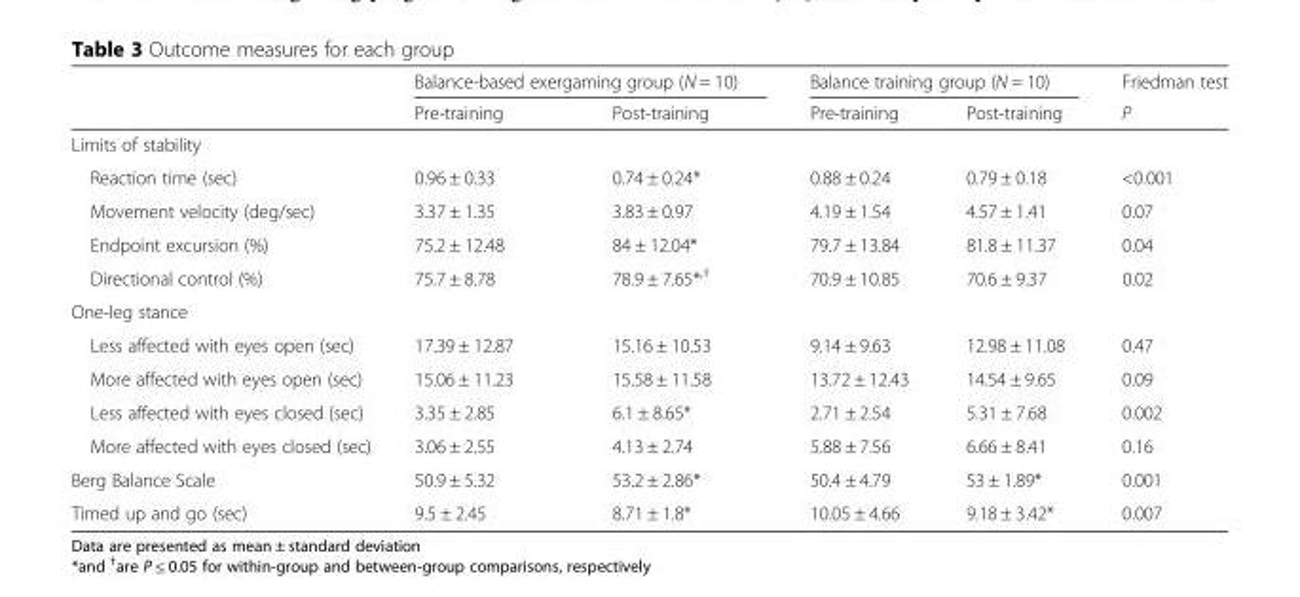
<table><thead><tr><td rowspan="2"></td><td colspan="2">Balance-based exergaming group (N = 10)</td><td colspan="2">Balance training group (N = 10)</td><td rowspan="2">Friedman test P</td></tr><tr><td>Pre-training</td><td>Post-training</td><td>Pre-training</td><td>Post-training</td></tr></thead><tbody><tr><td colspan="6">Limits of stability</td></tr><tr><td>Reaction time (sec)</td><td>0.96 ± 0.33</td><td>0.74 ± 0.24*</td><td>0.88 ± 0.24</td><td>0.79 ± 0.18</td><td>&lt;0.001</td></tr><tr><td>Movement velocity (deg/sec)</td><td>3.37 ± 1.35</td><td>3.83 ± 0.97</td><td>4.19 ± 1.54</td><td>4.57 ± 1.41</td><td>0.07</td></tr><tr><td>Endpoint excursion (%)</td><td>75.2 ± 12.48</td><td>84 ± 12.04*</td><td>79.7 ± 13.84</td><td>81.8 ± 11.37</td><td>0.04</td></tr><tr><td>Directional control (%)</td><td>75.7 ± 8.78</td><td>78.9 ± 7.65*<sup>,†</sup></td><td>70.9 ± 10.85</td><td>70.6 ± 9.37</td><td>0.02</td></tr><tr><td colspan="6">One-leg stance</td></tr><tr><td>Less affected with eyes open (sec)</td><td>17.39 ± 12.87</td><td>15.16 ± 10.53</td><td>9.14 ± 9.63</td><td>12.98 ± 11.08</td><td>0.47</td></tr><tr><td>More affected with eyes open (sec)</td><td>15.06 ± 11.23</td><td>15.58 ± 11.58</td><td>13.72 ± 12.43</td><td>14.54 ± 9.65</td><td>0.09</td></tr><tr><td>Less affected with eyes closed (sec)</td><td>3.35 ± 2.85</td><td>6.1 ± 8.65*</td><td>2.71 ± 2.54</td><td>5.31 ± 7.68</td><td>0.002</td></tr><tr><td>More affected with eyes closed (sec)</td><td>3.06 ± 2.55</td><td>4.13 ± 2.74</td><td>5.88 ± 7.56</td><td>6.66 ± 8.41</td><td>0.16</td></tr><tr><td>Berg Balance Scale</td><td>50.9 ± 5.32</td><td>53.2 ± 2.86*</td><td>50.4 ± 4.79</td><td>53 ± 1.89*</td><td>0.001</td></tr><tr><td>Timed up and go (sec)</td><td>9.5 ± 2.45</td><td>8.71 ± 1.8*</td><td>10.05 ± 4.66</td><td>9.18 ± 3.42*</td><td>0.007</td></tr></tbody></table>